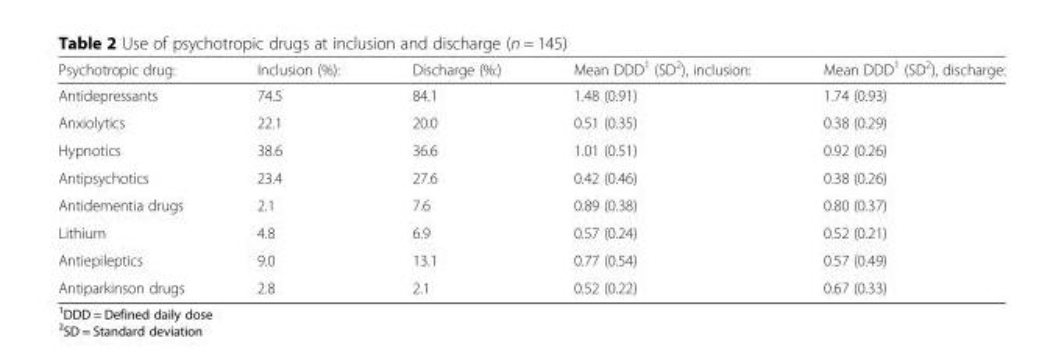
<table><thead><tr><td>Psychotropic drug:</td><td>Inclusion (%):</td><td>Discharge (%:)</td><td>Mean DDD<sup>1</sup> (SD<sup>2</sup>), inclusion:</td><td>Mean DDD<sup>1</sup> (SD<sup>2</sup>), discharge:</td></tr></thead><tbody><tr><td>Antidepressants</td><td>74.5</td><td>84.1</td><td>1.48 (0.91)</td><td>1.74 (0.93)</td></tr><tr><td>Anxiolytics</td><td>22.1</td><td>20.0</td><td>0.51 (0.35)</td><td>0.38 (0.29)</td></tr><tr><td>Hypnotics</td><td>38.6</td><td>36.6</td><td>1.01 (0.51)</td><td>0.92 (0.26)</td></tr><tr><td>Antipsychotics</td><td>23.4</td><td>27.6</td><td>0.42 (0.46)</td><td>0.38 (0.26)</td></tr><tr><td>Antidementia drugs</td><td>2.1</td><td>7.6</td><td>0.89 (0.38)</td><td>0.80 (0.37)</td></tr><tr><td>Lithium</td><td>4.8</td><td>6.9</td><td>0.57 (0.24)</td><td>0.52 (0.21)</td></tr><tr><td>Antiepileptics</td><td>9.0</td><td>13.1</td><td>0.77 (0.54)</td><td>0.57 (0.49)</td></tr><tr><td>Antiparkinson drugs</td><td>2.8</td><td>2.1</td><td>0.52 (0.22)</td><td>0.67 (0.33)</td></tr></tbody></table>